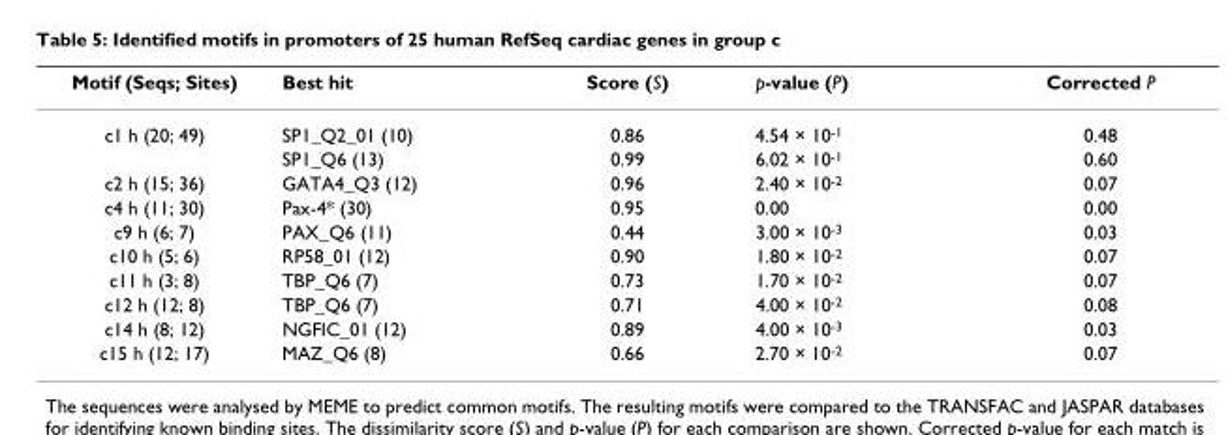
<table><thead><tr><td>Motif (Seqs; Sites)</td><td>Best hit</td><td>Score (S)</td><td>p-value (P)</td><td>Corrected P</td></tr></thead><tbody><tr><td rowspan="2">c1 h (20; 49)</td><td>SP1_Q2_01 (10)</td><td>0.86</td><td>4.54 × 10<sup>-1</sup></td><td>0.48</td></tr><tr><td>SP1_Q6 (13)</td><td>0.99</td><td>6.02 × 10<sup>-1</sup></td><td>0.60</td></tr><tr><td>c2 h (15; 36)</td><td>GATA4_Q3 (12)</td><td>0.96</td><td>2.40 × 10<sup>-2</sup></td><td>0.07</td></tr><tr><td>c4 h (11; 30)</td><td>Pax-4* (30)</td><td>0.95</td><td>0.00</td><td>0.00</td></tr><tr><td>c9 h (6; 7)</td><td>PAX_Q6 (11)</td><td>0.44</td><td>3.00 × 10<sup>-3</sup></td><td>0.03</td></tr><tr><td>c10 h (5; 6)</td><td>RP58_01 (12)</td><td>0.90</td><td>1.80 × 10<sup>-2</sup></td><td>0.07</td></tr><tr><td>c11 h (3; 8)</td><td>TBP_Q6 (7)</td><td>0.73</td><td>1.70 × 10<sup>-2</sup></td><td>0.07</td></tr><tr><td>c12 h (12; 8)</td><td>TBP_Q6 (7)</td><td>0.71</td><td>4.00 × 10<sup>-2</sup></td><td>0.08</td></tr><tr><td>c14 h (8; 12)</td><td>NGFIC_01 (12)</td><td>0.89</td><td>4.00 × 10<sup>-3</sup></td><td>0.03</td></tr><tr><td>c15 h (12; 17)</td><td>MAZ_Q6 (8)</td><td>0.66</td><td>2.70 × 10<sup>-2</sup></td><td>0.07</td></tr></tbody></table>